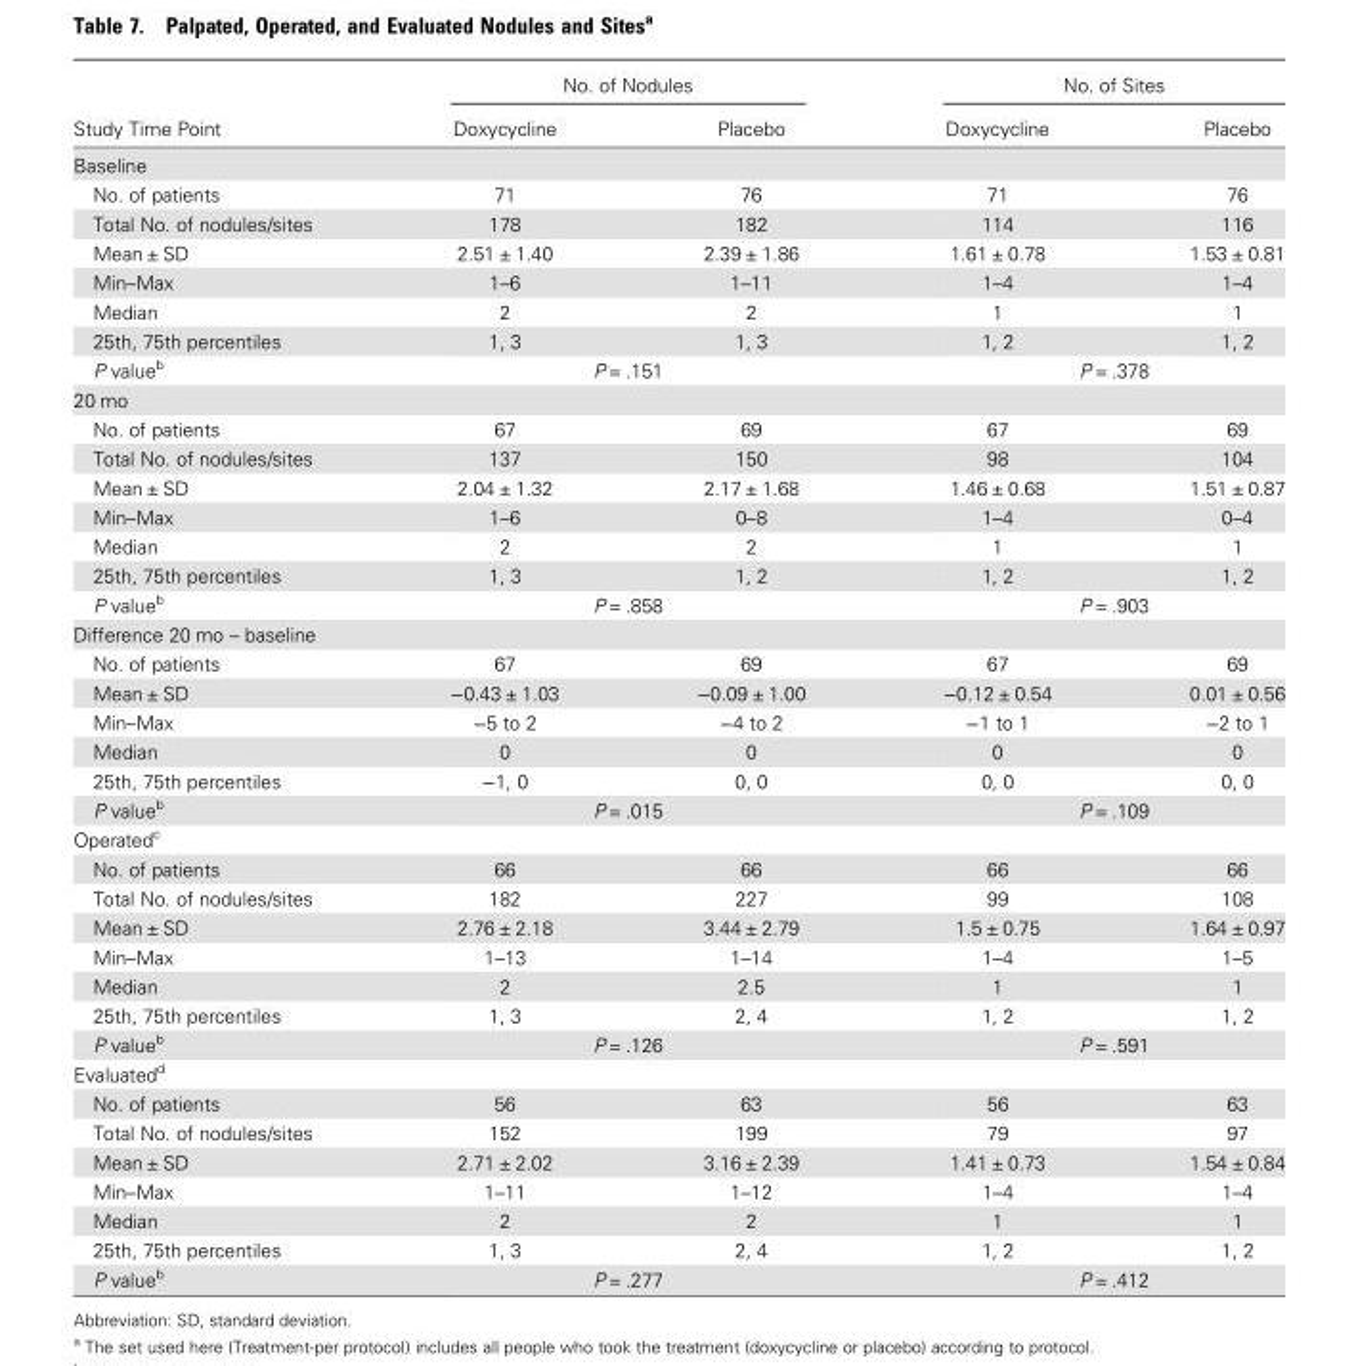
<table><thead><tr><td rowspan="2">Study Time Point</td><td colspan="2">No. of Nodules</td><td colspan="2">No. of Sites</td></tr><tr><td>Doxycycline</td><td>Placebo</td><td>Doxycycline</td><td>Placebo</td></tr></thead><tbody><tr><td colspan="5">Baseline</td></tr><tr><td>No. of patients</td><td>71</td><td>76</td><td>71</td><td>76</td></tr><tr><td>Total No. of nodules/sites</td><td>178</td><td>182</td><td>114</td><td>116</td></tr><tr><td>Mean ± SD</td><td>2.51 ± 1.40</td><td>2.39 ± 1.86</td><td>1.61 ± 0.78</td><td>1.53 ± 0.81</td></tr><tr><td>Min–Max</td><td>1–6</td><td>1–11</td><td>1–4</td><td>1–4</td></tr><tr><td>Median</td><td>2</td><td>2</td><td>1</td><td>1</td></tr><tr><td>25th, 75th percentiles</td><td>1, 3</td><td>1, 3</td><td>1, 2</td><td>1, 2</td></tr><tr><td>P value<sup>b</sup></td><td colspan="2">P = .151</td><td colspan="2">P = .378</td></tr><tr><td colspan="5">20 mo</td></tr><tr><td>No. of patients</td><td>67</td><td>69</td><td>67</td><td>69</td></tr><tr><td>Total No. of nodules/sites</td><td>137</td><td>150</td><td>98</td><td>104</td></tr><tr><td>Mean ± SD</td><td>2.04 ± 1.32</td><td>2.17 ± 1.68</td><td>1.46 ± 0.68</td><td>1.51 ± 0.87</td></tr><tr><td>Min–Max</td><td>1–6</td><td>0–8</td><td>1–4</td><td>0–4</td></tr><tr><td>Median</td><td>2</td><td>2</td><td>1</td><td>1</td></tr><tr><td>25th, 75th percentiles</td><td>1, 3</td><td>1, 2</td><td>1, 2</td><td>1, 2</td></tr><tr><td>P value<sup>b</sup></td><td colspan="2">P = .858</td><td colspan="2">P = .903</td></tr><tr><td colspan="5">Difference 20 mo – baseline</td></tr><tr><td>No. of patients</td><td>67</td><td>69</td><td>67</td><td>69</td></tr><tr><td>Mean ± SD</td><td>−0.43 ± 1.03</td><td>−0.09 ± 1.00</td><td>−0.12 ± 0.54</td><td>0.01 ± 0.56</td></tr><tr><td>Min–Max</td><td>−5 to 2</td><td>−4 to 2</td><td>−1 to 1</td><td>−2 to 1</td></tr><tr><td>Median</td><td>0</td><td>0</td><td>0</td><td>0</td></tr><tr><td>25th, 75th percentiles</td><td>−1, 0</td><td>0, 0</td><td>0, 0</td><td>0, 0</td></tr><tr><td>P value<sup>b</sup></td><td colspan="2">P = .015</td><td colspan="2">P = .109</td></tr><tr><td colspan="5">Operated<sup>c</sup></td></tr><tr><td>No. of patients</td><td>66</td><td>66</td><td>66</td><td>66</td></tr><tr><td>Total No. of nodules/sites</td><td>182</td><td>227</td><td>99</td><td>108</td></tr><tr><td>Mean ± SD</td><td>2.76 ± 2.18</td><td>3.44 ± 2.79</td><td>1.5 ± 0.75</td><td>1.64 ± 0.97</td></tr><tr><td>Min–Max</td><td>1–13</td><td>1–14</td><td>1–4</td><td>1–5</td></tr><tr><td>Median</td><td>2</td><td>2.5</td><td>1</td><td>1</td></tr><tr><td>25th, 75th percentiles</td><td>1, 3</td><td>2, 4</td><td>1, 2</td><td>1, 2</td></tr><tr><td>P value<sup>b</sup></td><td colspan="2">P = .126</td><td colspan="2">P = .591</td></tr><tr><td colspan="5">Evaluated<sup>d</sup></td></tr><tr><td>No. of patients</td><td>56</td><td>63</td><td>56</td><td>63</td></tr><tr><td>Total No. of nodules/sites</td><td>152</td><td>199</td><td>79</td><td>97</td></tr><tr><td>Mean ± SD</td><td>2.71 ± 2.02</td><td>3.16 ± 2.39</td><td>1.41 ± 0.73</td><td>1.54 ± 0.84</td></tr><tr><td>Min–Max</td><td>1–11</td><td>1–12</td><td>1–4</td><td>1–4</td></tr><tr><td>Median</td><td>2</td><td>2</td><td>1</td><td>1</td></tr><tr><td>25th, 75th percentiles</td><td>1, 3</td><td>2, 4</td><td>1, 2</td><td>1, 2</td></tr><tr><td>P value<sup>b</sup></td><td colspan="2">P = .277</td><td colspan="2">P = .412</td></tr></tbody></table>